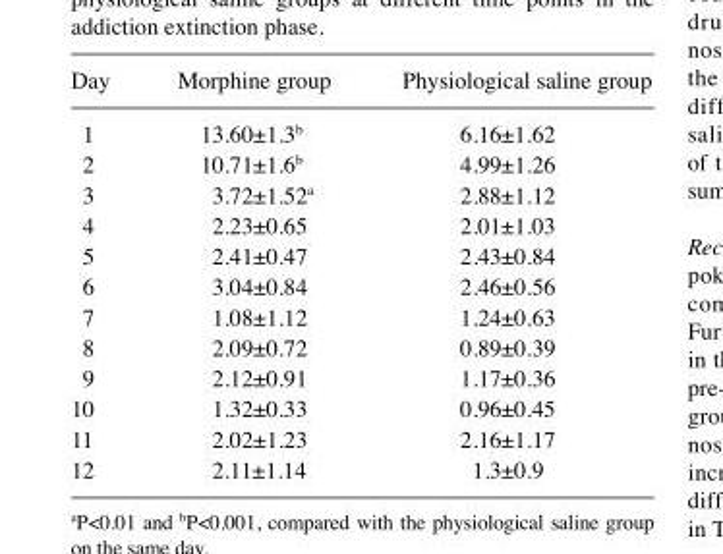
<table><thead><tr><td>Day</td><td>Morphine group</td><td>Physiological saline group</td></tr></thead><tbody><tr><td>1</td><td>13.60±1.3<sup>b</sup></td><td>6.16±1.62</td></tr><tr><td>2</td><td>10.71±1.6<sup>b</sup></td><td>4.99±1.26</td></tr><tr><td>3</td><td>3.72±1.52<sup>a</sup></td><td>2.88±1.12</td></tr><tr><td>4</td><td>2.23±0.65</td><td>2.01±1.03</td></tr><tr><td>5</td><td>2.41±0.47</td><td>2.43±0.84</td></tr><tr><td>6</td><td>3.04±0.84</td><td>2.46±0.56</td></tr><tr><td>7</td><td>1.08±1.12</td><td>1.24±0.63</td></tr><tr><td>8</td><td>2.09±0.72</td><td>0.89±0.39</td></tr><tr><td>9</td><td>2.12±0.91</td><td>1.17±0.36</td></tr><tr><td>10</td><td>1.32±0.33</td><td>0.96±0.45</td></tr><tr><td>11</td><td>2.02±1.23</td><td>2.16±1.17</td></tr><tr><td>12</td><td>2.11±1.14</td><td>1.3±0.9</td></tr></tbody></table>